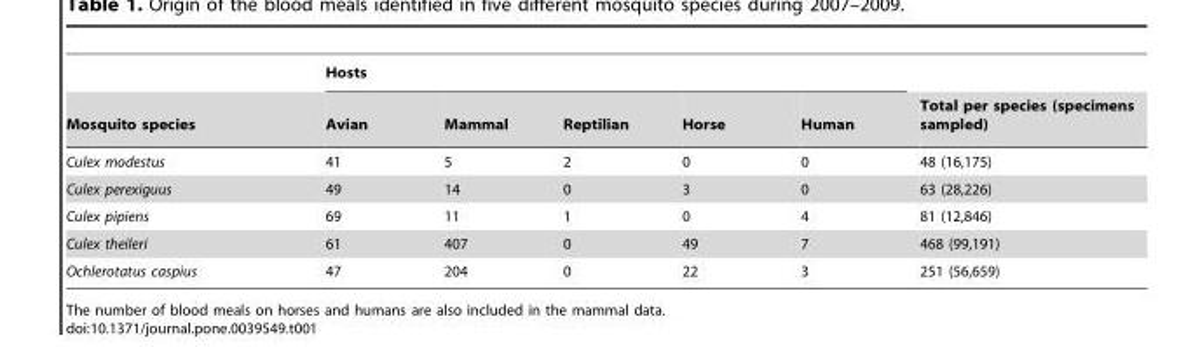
<table><thead><tr><td rowspan="2">Mosquito species</td><td colspan="5">Hosts</td><td rowspan="2">Total per species (specimens sampled)</td></tr><tr><td>Avian</td><td>Mammal</td><td>Reptilian</td><td>Horse</td><td>Human</td></tr></thead><tbody><tr><td>Culex modestus</td><td>41</td><td>5</td><td>2</td><td>0</td><td>0</td><td>48 (16,175)</td></tr><tr><td>Culex perexiguus</td><td>49</td><td>14</td><td>0</td><td>3</td><td>0</td><td>63 (28,226)</td></tr><tr><td>Culex pipiens</td><td>69</td><td>11</td><td>1</td><td>0</td><td>4</td><td>81 (12,846)</td></tr><tr><td>Culex theileri</td><td>61</td><td>407</td><td>0</td><td>49</td><td>7</td><td>468 (99,191)</td></tr><tr><td>Ochlerotatus caspius</td><td>47</td><td>204</td><td>0</td><td>22</td><td>3</td><td>251 (56,659)</td></tr></tbody></table>